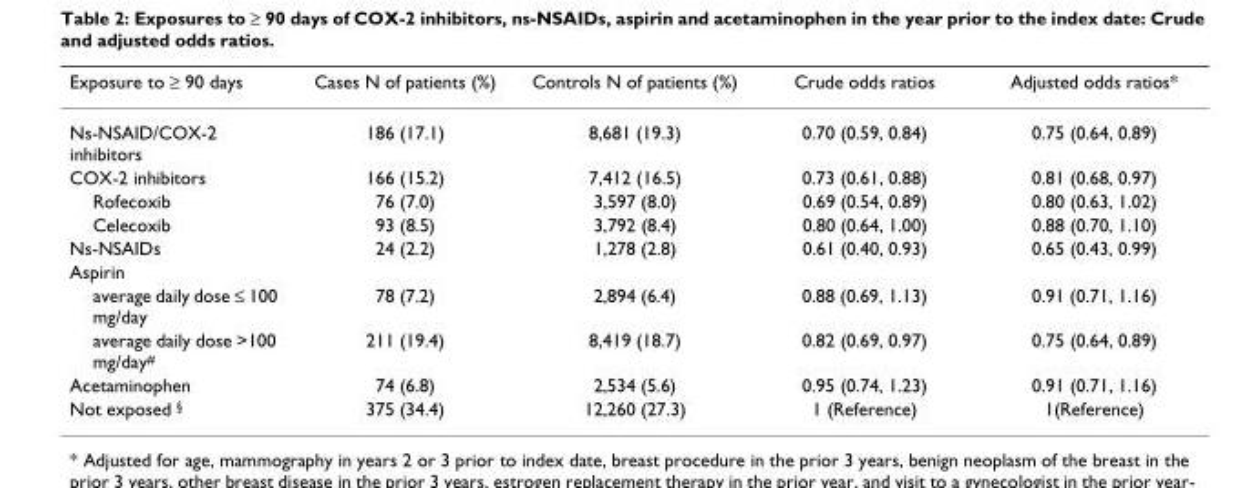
<table><thead><tr><td>Exposure to ≥ 90 days</td><td>Cases N of patients (%)</td><td>Controls N of patients (%)</td><td>Crude odds ratios</td><td>Adjusted odds ratios*</td></tr></thead><tbody><tr><td>Ns-NSAID/COX-2 inhibitors</td><td>186 (17.1)</td><td>8,681 (19.3)</td><td>0.70 (0.59, 0.84)</td><td>0.75 (0.64, 0.89)</td></tr><tr><td>COX-2 inhibitors</td><td>166 (15.2)</td><td>7,412 (16.5)</td><td>0.73 (0.61, 0.88)</td><td>0.81 (0.68, 0.97)</td></tr><tr><td>Rofecoxib</td><td>76 (7.0)</td><td>3,597 (8.0)</td><td>0.69 (0.54, 0.89)</td><td>0.80 (0.63, 1.02)</td></tr><tr><td>Celecoxib</td><td>93 (8.5)</td><td>3,792 (8.4)</td><td>0.80 (0.64, 1.00)</td><td>0.88 (0.70, 1.10)</td></tr><tr><td>Ns-NSAIDs</td><td>24 (2.2)</td><td>1,278 (2.8)</td><td>0.61 (0.40, 0.93)</td><td>0.65 (0.43, 0.99)</td></tr><tr><td colspan="5">Aspirin</td></tr><tr><td>average daily dose ≤ 100 mg/day</td><td>78 (7.2)</td><td>2,894 (6.4)</td><td>0.88 (0.69, 1.13)</td><td>0.91 (0.71, 1.16)</td></tr><tr><td>average daily dose &gt;100 mg/day#</td><td>211 (19.4)</td><td>8,419 (18.7)</td><td>0.82 (0.69, 0.97)</td><td>0.75 (0.64, 0.89)</td></tr><tr><td>Acetaminophen</td><td>74 (6.8)</td><td>2,534 (5.6)</td><td>0.95 (0.74, 1.23)</td><td>0.91 (0.71, 1.16)</td></tr><tr><td>Not exposed §</td><td>375 (34.4)</td><td>12,260 (27.3)</td><td>1 (Reference)</td><td>1(Reference)</td></tr></tbody></table>